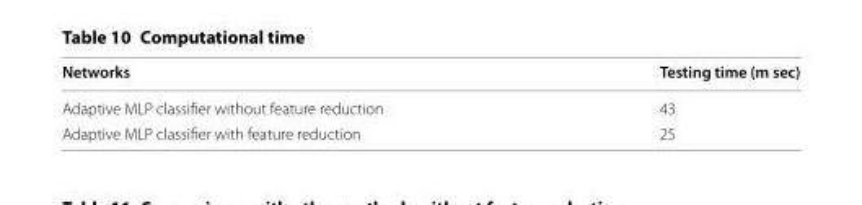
<table><thead><tr><td>Networks</td><td>Testing time (m sec)</td></tr></thead><tbody><tr><td>Adaptive MLP classifier without feature reduction</td><td>43</td></tr><tr><td>Adaptive MLP classifier with feature reduction</td><td>25</td></tr></tbody></table>